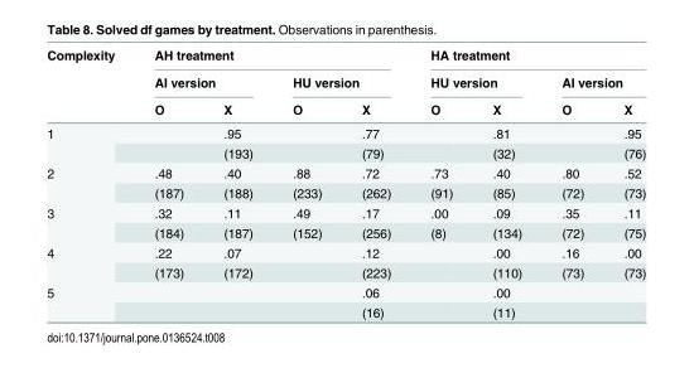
<table><thead><tr><td rowspan="3">Complexity</td><td colspan="4">AH treatment</td><td colspan="4">HA treatment</td></tr><tr><td colspan="2">AI version</td><td colspan="2">HU version</td><td colspan="2">HU version</td><td colspan="2">AI version</td></tr><tr><td>O</td><td>X</td><td>O</td><td>X</td><td>O</td><td>X</td><td>O</td><td>X</td></tr></thead><tbody><tr><td rowspan="2">1</td><td></td><td>.95</td><td></td><td>.77</td><td></td><td>.81</td><td></td><td>.95</td></tr><tr><td></td><td>(193)</td><td></td><td>(79)</td><td></td><td>(32)</td><td></td><td>(76)</td></tr><tr><td rowspan="2">2</td><td>.48</td><td>.40</td><td>.88</td><td>.72</td><td>.73</td><td>.40</td><td>.80</td><td>.52</td></tr><tr><td>(187)</td><td>(188)</td><td>(233)</td><td>(262)</td><td>(91)</td><td>(85)</td><td>(72)</td><td>(73)</td></tr><tr><td rowspan="2">3</td><td>.32</td><td>.11</td><td>.49</td><td>.17</td><td>.00</td><td>.09</td><td>.35</td><td>.11</td></tr><tr><td>(184)</td><td>(187)</td><td>(152)</td><td>(256)</td><td>(8)</td><td>(134)</td><td>(72)</td><td>(75)</td></tr><tr><td rowspan="2">4</td><td>.22</td><td>.07</td><td></td><td>.12</td><td></td><td>.00</td><td>.16</td><td>.00</td></tr><tr><td>(173)</td><td>(172)</td><td></td><td>(223)</td><td></td><td>(110)</td><td>(73)</td><td>(73)</td></tr><tr><td rowspan="2">5</td><td></td><td></td><td></td><td>.06</td><td></td><td>.00</td><td></td><td></td></tr><tr><td></td><td></td><td></td><td>(16)</td><td></td><td>(11)</td><td></td><td></td></tr></tbody></table>